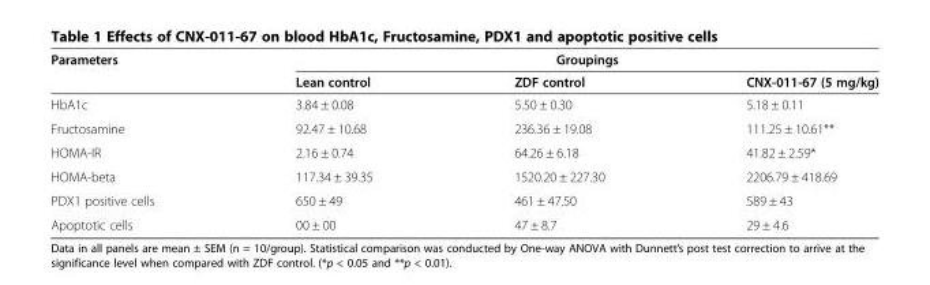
<table><thead><tr><td rowspan="2">Parameters</td><td rowspan="2">Lean control</td><td rowspan="2">Groupings ZDF control</td><td rowspan="2">CNX-011-67 (5 mg/kg)</td></tr><tr></tr></thead><tbody><tr><td>HbA1c</td><td>3.84 ± 0.08</td><td>5.50 ± 0.30</td><td>5.18 ± 0.11</td></tr><tr><td>Fructosamine</td><td>92.47 ± 10.68</td><td>236.36 ± 19.08</td><td>111.25 ± 10.61**</td></tr><tr><td>HOMA-IR</td><td>2.16 ± 0.74</td><td>64.26 ± 6.18</td><td>41.82 ± 2.59*</td></tr><tr><td>HOMA-beta</td><td>117.34 ± 39.35</td><td>1520.20 ± 227.30</td><td>2206.79 ± 418.69</td></tr><tr><td>PDX1 positive cells</td><td>650 ± 49</td><td>461 ± 47.50</td><td>589 ± 43</td></tr><tr><td>Apoptotic cells</td><td>00 ± 00</td><td>47 ± 8.7</td><td>29 ± 4.6</td></tr></tbody></table>